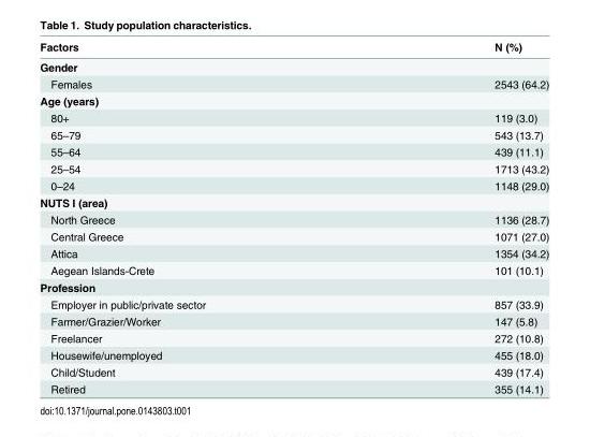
<table><thead><tr><td>Factors</td><td>N (%)</td></tr></thead><tbody><tr><td colspan="2">Gender</td></tr><tr><td>Females</td><td>2543 (64.2)</td></tr><tr><td colspan="2">Age (years)</td></tr><tr><td>80+</td><td>119 (3.0)</td></tr><tr><td>65–79</td><td>543 (13.7)</td></tr><tr><td>55–64</td><td>439 (11.1)</td></tr><tr><td>25–54</td><td>1713 (43.2)</td></tr><tr><td>0–24</td><td>1148 (29.0)</td></tr><tr><td colspan="2">NUTS I (area)</td></tr><tr><td>North Greece</td><td>1136 (28.7)</td></tr><tr><td>Central Greece</td><td>1071 (27.0)</td></tr><tr><td>Attica</td><td>1354 (34.2)</td></tr><tr><td>Aegean Islands-Crete</td><td>101 (10.1)</td></tr><tr><td colspan="2">Profession</td></tr><tr><td>Employer in public/private sector</td><td>857 (33.9)</td></tr><tr><td>Farmer/Grazier/Worker</td><td>147 (5.8)</td></tr><tr><td>Freelancer</td><td>272 (10.8)</td></tr><tr><td>Housewife/unemployed</td><td>455 (18.0)</td></tr><tr><td>Child/Student</td><td>439 (17.4)</td></tr><tr><td>Retired</td><td>355 (14.1)</td></tr></tbody></table>